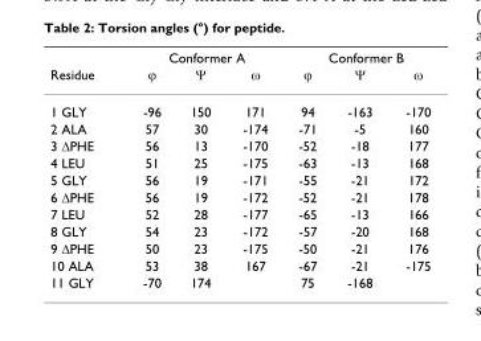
<table><thead><tr><td rowspan="2">Residue</td><td colspan="3">Conformer A</td><td colspan="3">Conformer B</td></tr><tr><td>ϕ</td><td>Ψ</td><td>ω</td><td>ϕ</td><td>Ψ</td><td>ω</td></tr></thead><tbody><tr><td>1 GLY</td><td>-96</td><td>150</td><td>171</td><td>94</td><td>-163</td><td>-170</td></tr><tr><td>2 ALA</td><td>57</td><td>30</td><td>-174</td><td>-71</td><td>-5</td><td>160</td></tr><tr><td>3 ∆PHE</td><td>56</td><td>13</td><td>-170</td><td>-52</td><td>-18</td><td>177</td></tr><tr><td>4 LEU</td><td>51</td><td>25</td><td>-175</td><td>-63</td><td>-13</td><td>168</td></tr><tr><td>5 GLY</td><td>56</td><td>19</td><td>-171</td><td>-55</td><td>-21</td><td>172</td></tr><tr><td>6 ∆PHE</td><td>56</td><td>19</td><td>-172</td><td>-52</td><td>-21</td><td>178</td></tr><tr><td>7 LEU</td><td>52</td><td>28</td><td>-177</td><td>-65</td><td>-13</td><td>166</td></tr><tr><td>8 GLY</td><td>54</td><td>23</td><td>-172</td><td>-57</td><td>-20</td><td>168</td></tr><tr><td>9 ∆PHE</td><td>50</td><td>23</td><td>-175</td><td>-50</td><td>-21</td><td>176</td></tr><tr><td>10 ALA</td><td>53</td><td>38</td><td>167</td><td>-67</td><td>-21</td><td>-175</td></tr><tr><td>11 GLY</td><td>-70</td><td>174</td><td></td><td>75</td><td>-168</td><td></td></tr></tbody></table>